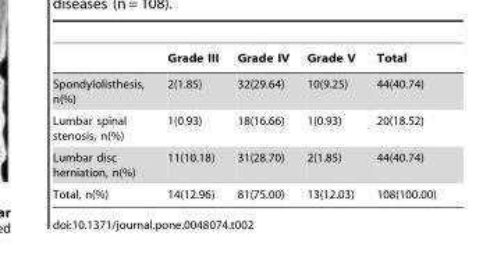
<table><thead><tr><td></td><td>Grade III</td><td>Grade IV</td><td>Grade V</td><td>Total</td></tr></thead><tbody><tr><td>Spondylolisthesis, n(%)</td><td>2(1.85)</td><td>32(29.64)</td><td>10(9.25)</td><td>44(40.74)</td></tr><tr><td>Lumbar spinal stenosis, n(%)</td><td>1(0.93)</td><td>18(16.66)</td><td>1(0.93)</td><td>20(18.52)</td></tr><tr><td>Lumbar disc herniation, n(%)</td><td>11(10.18)</td><td>31(28.70)</td><td>2(1.85)</td><td>44(40.74)</td></tr><tr><td>Total, n(%)</td><td>14(12.96)</td><td>81(75.00)</td><td>13(12.03)</td><td>108(100.00)</td></tr></tbody></table>